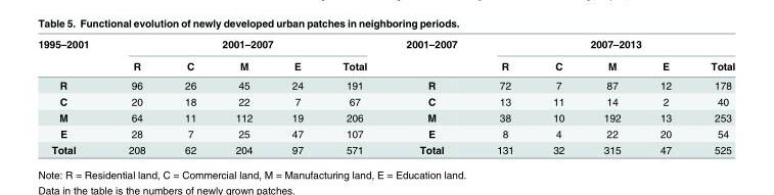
<table><thead><tr><td rowspan="2">1995–2001</td><td colspan="5">2001–2007</td><td rowspan="2">2001–2007</td><td colspan="5">2007–2013</td></tr><tr><td>R</td><td>C</td><td>M</td><td>E</td><td>Total</td><td>R</td><td>C</td><td>M</td><td>E</td><td>Total</td></tr></thead><tbody><tr><td>R</td><td>96</td><td>26</td><td>45</td><td>24</td><td>191</td><td>R</td><td>72</td><td>7</td><td>87</td><td>12</td><td>178</td></tr><tr><td>C</td><td>20</td><td>18</td><td>22</td><td>7</td><td>67</td><td>C</td><td>13</td><td>11</td><td>14</td><td>2</td><td>40</td></tr><tr><td>M</td><td>64</td><td>11</td><td>112</td><td>19</td><td>206</td><td>M</td><td>38</td><td>10</td><td>192</td><td>13</td><td>253</td></tr><tr><td>E</td><td>28</td><td>7</td><td>25</td><td>47</td><td>107</td><td>E</td><td>8</td><td>4</td><td>22</td><td>20</td><td>54</td></tr><tr><td>Total</td><td>208</td><td>62</td><td>204</td><td>97</td><td>571</td><td>Total</td><td>131</td><td>32</td><td>315</td><td>47</td><td>525</td></tr></tbody></table>